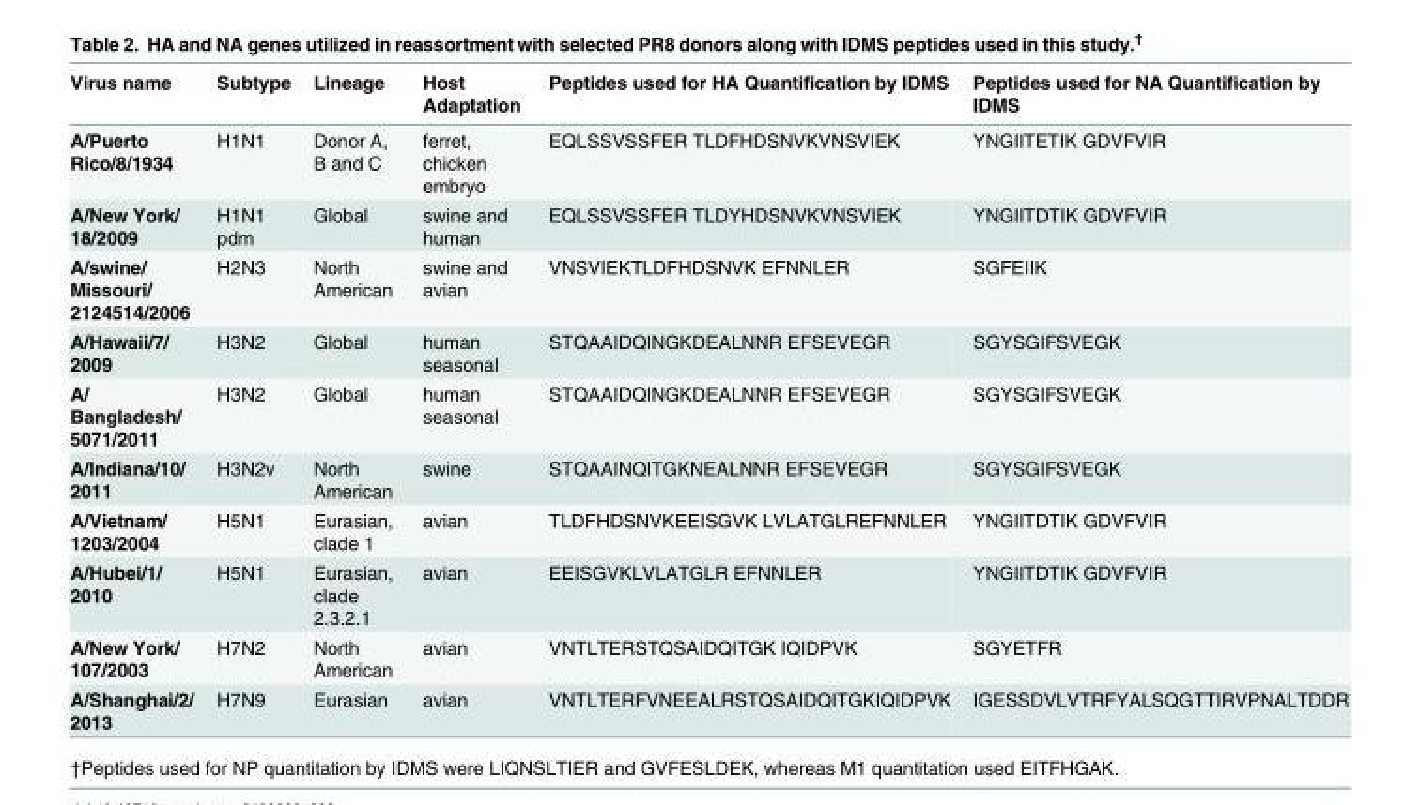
<table><thead><tr><td>Virus name</td><td>Subtype</td><td>Lineage</td><td>Host Adaptation</td><td>Peptides used for HA Quantification by IDMS</td><td>Peptides used for NA Quantification by IDMS</td></tr></thead><tbody><tr><td>A/Puerto Rico/8/1934</td><td>H1N1</td><td>Donor A, B and C</td><td>ferret, chicken embryo</td><td>EQLSSVSSFER TLDFHDSNVKVNSVIEK</td><td>YNGIITETIK GDVFVIR</td></tr><tr><td>A/New York/ 18/2009</td><td>H1N1 pdm</td><td>Global</td><td>swine and human</td><td>EQLSSVSSFER TLDYHDSNVKVNSVIEK</td><td>YNGIITDTIK GDVFVIR</td></tr><tr><td>A/swine/ Missouri/ 2124514/2006</td><td>H2N3</td><td>North American</td><td>swine and avian</td><td>VNSVIEKTLDFHDSNVK EFNNLER</td><td>SGFEIIK</td></tr><tr><td>A/Hawaii/7/ 2009</td><td>H3N2</td><td>Global</td><td>human seasonal</td><td>STQAAIDQINGKDEALNNR EFSEVEGR</td><td>SGYSGIFSVEGK</td></tr><tr><td>A/ Bangladesh/ 5071/2011</td><td>H3N2</td><td>Global</td><td>human seasonal</td><td>STQAAIDQINGKDEALNNR EFSEVEGR</td><td>SGYSGIFSVEGK</td></tr><tr><td>A/Indiana/10/ 2011</td><td>H3N2v</td><td>North American</td><td>swine</td><td>STQAAINQITGKNEALNNR EFSEVEGR</td><td>SGYSGIFSVEGK</td></tr><tr><td>A/Vietnam/ 1203/2004</td><td>H5N1</td><td>Eurasian, clade 1</td><td>avian</td><td>TLDFHDSNVKEEISGVK LVLATGLREFNNLER</td><td>YNGIITDTIK GDVFVIR</td></tr><tr><td>A/Hubei/1/ 2010</td><td>H5N1</td><td>Eurasian, clade 2.3.2.1</td><td>avian</td><td>EEISGVKLVLATGLR EFNNLER</td><td>YNGIITDTIK GDVFVIR</td></tr><tr><td>A/New York/ 107/2003</td><td>H7N2</td><td>North American</td><td>avian</td><td>VNTLTERSTQSAIDQITGK IQIDPVK</td><td>SGYETFR</td></tr><tr><td>A/Shanghai/2/ 2013</td><td>H7N9</td><td>Eurasian</td><td>avian</td><td>VNTLTERFVNEEALRSTQSAIDQITGKIQIDPVK</td><td>IGESSDVLVTRFYALSQGTTIRVPNALTDDR</td></tr></tbody></table>